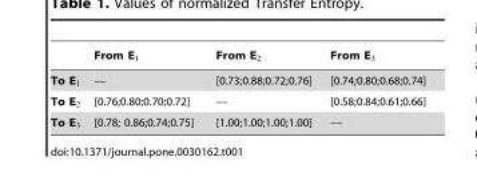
<table><thead><tr><td></td><td>From E1</td><td>From E2</td><td>From E3</td></tr></thead><tbody><tr><td>To E1</td><td>––</td><td>[0.73;0.88;0.72;0.76]</td><td>[0.74;0.80;0.68;0.74]</td></tr><tr><td>To E2</td><td>[0.76;0.80;0.70;0.72]</td><td>––</td><td>[0.58;0.84;0.61;0.66]</td></tr><tr><td>To E3</td><td>[0.78; 0.86;0.74;0.75]</td><td>[1.00;1.00;1.00;1.00]</td><td>––</td></tr></tbody></table>